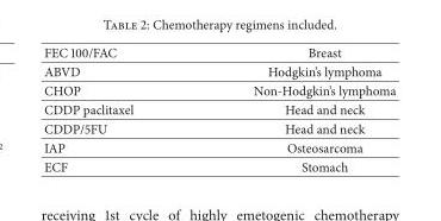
<table><tbody><tr><td>FEC 100/FAC</td><td>Breast</td></tr><tr><td>ABVD</td><td>Hodgkin’s lymphoma</td></tr><tr><td>CHOP</td><td>Non-Hodgkin’s lymphoma</td></tr><tr><td>CDDP paclitaxel</td><td>Head and neck</td></tr><tr><td>CDDP/5FU</td><td>Head and neck</td></tr><tr><td>IAP</td><td>Osteosarcoma</td></tr><tr><td>ECF</td><td>Stomach</td></tr></tbody></table>